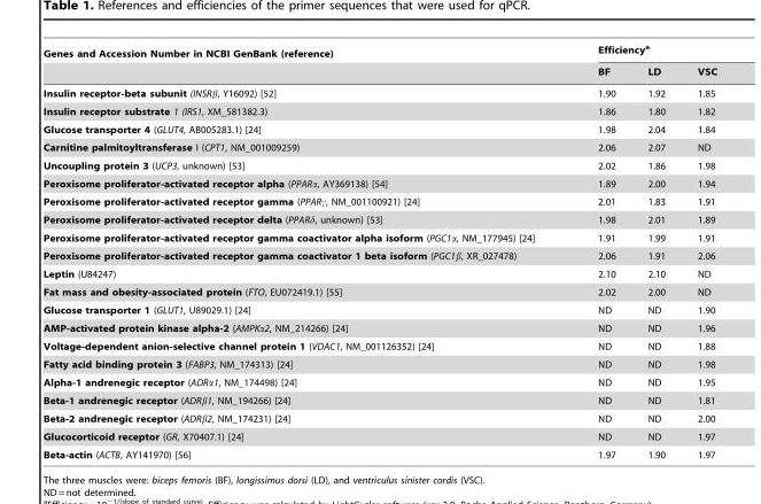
<table><thead><tr><td rowspan="2">Genes and Accession Number in NCBI GenBank (reference)</td><td colspan="3">Efficiency<sup>a</sup></td></tr><tr><td>BF</td><td>LD</td><td>VSC</td></tr></thead><tbody><tr><td>Insulin receptor-beta subunit (INSRβ, Y16092) [52]</td><td>1.90</td><td>1.92</td><td>1.85</td></tr><tr><td>Insulin receptor substrate 1 (IRS1, XM_581382.3)</td><td>1.86</td><td>1.80</td><td>1.82</td></tr><tr><td>Glucose transporter 4 (GLUT4, AB005283.1) [24]</td><td>1.98</td><td>2.04</td><td>1.84</td></tr><tr><td>Carnitine palmitoyltransferase I (CPT1, NM_001009259)</td><td>2.06</td><td>2.07</td><td>ND</td></tr><tr><td>Uncoupling protein 3 (UCP3, unknown) [53]</td><td>2.02</td><td>1.86</td><td>1.98</td></tr><tr><td>Peroxisome proliferator-activated receptor alpha (PPARα, AY369138) [54]</td><td>1.89</td><td>2.00</td><td>1.94</td></tr><tr><td>Peroxisome proliferator-activated receptor gamma (PPARγ, NM_001100921) [24]</td><td>2.01</td><td>1.83</td><td>1.91</td></tr><tr><td>Peroxisome proliferator-activated receptor delta (PPARδ, unknown) [53]</td><td>1.98</td><td>2.01</td><td>1.89</td></tr><tr><td>Peroxisome proliferator-activated receptor gamma coactivator alpha isoform (PGC1α, NM_177945) [24]</td><td>1.91</td><td>1.99</td><td>1.91</td></tr><tr><td>Peroxisome proliferator-activated receptor gamma coactivator 1 beta isoform (PGC1β, XR_027478)</td><td>2.06</td><td>1.91</td><td>2.06</td></tr><tr><td>Leptin (U84247)</td><td>2.10</td><td>2.10</td><td>ND</td></tr><tr><td>Fat mass and obesity-associated protein (FTO, EU072419.1) [55]</td><td>2.02</td><td>2.00</td><td>ND</td></tr><tr><td>Glucose transporter 1 (GLUT1, U89029.1) [24]</td><td>ND</td><td>ND</td><td>1.90</td></tr><tr><td>AMP-activated protein kinase alpha-2 (AMPKα2, NM_214266) [24]</td><td>ND</td><td>ND</td><td>1.96</td></tr><tr><td>Voltage-dependent anion-selective channel protein 1 (VDAC1, NM_001126352) [24]</td><td>ND</td><td>ND</td><td>1.88</td></tr><tr><td>Fatty acid binding protein 3 (FABP3, NM_174313) [24]</td><td>ND</td><td>ND</td><td>1.98</td></tr><tr><td>Alpha-1 andrenegic receptor (ADRα1, NM_174498) [24]</td><td>ND</td><td>ND</td><td>1.95</td></tr><tr><td>Beta-1 andrenegic receptor (ADRβ1, NM_194266) [24]</td><td>ND</td><td>ND</td><td>1.81</td></tr><tr><td>Beta-2 andrenegic receptor (ADRβ2, NM_174231) [24]</td><td>ND</td><td>ND</td><td>2.00</td></tr><tr><td>Glucocorticoid receptor (GR, X70407.1) [24]</td><td>ND</td><td>ND</td><td>1.97</td></tr><tr><td>Beta-actin (ACTB, AY141970) [56]</td><td>1.97</td><td>1.90</td><td>1.97</td></tr></tbody></table>